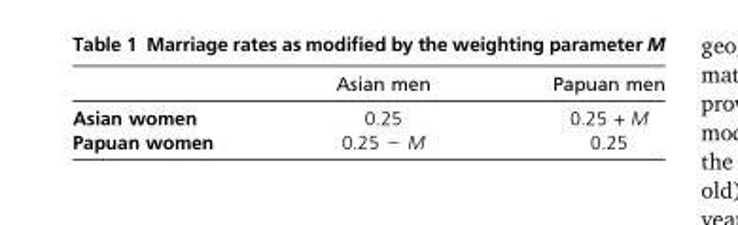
<table><thead><tr><td></td><td>Asian men</td><td>Papuan men</td></tr></thead><tbody><tr><td>Asian women</td><td>0.25</td><td>0.25 + M</td></tr><tr><td>Papuan women</td><td>0.25 − M</td><td>0.25</td></tr></tbody></table>